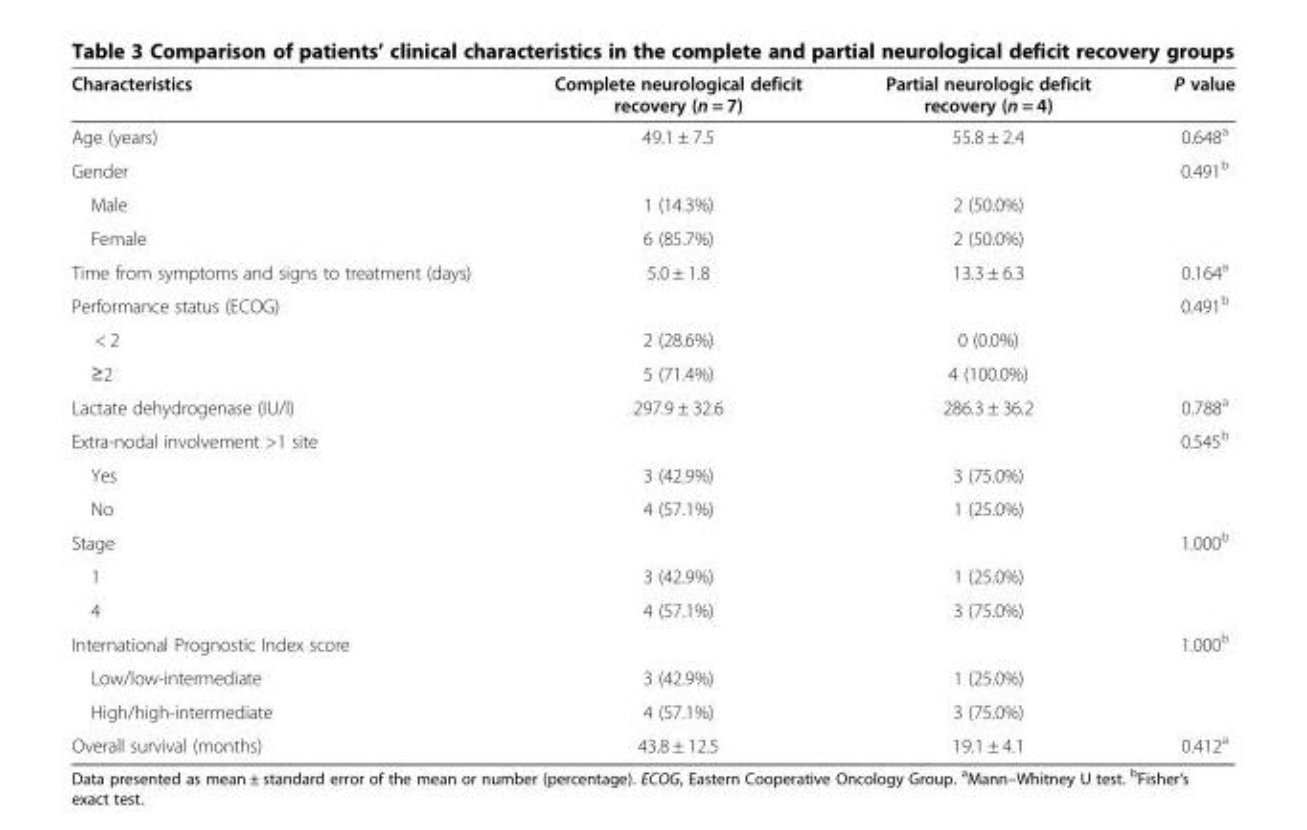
<table><thead><tr><td>Characteristics</td><td>Complete neurological deficit recovery (n = 7)</td><td>Partial neurologic deficit recovery (n = 4)</td><td>P value</td></tr></thead><tbody><tr><td>Age (years)</td><td>49.1 ± 7.5</td><td>55.8 ± 2.4</td><td>0.648<sup>a</sup></td></tr><tr><td>Gender</td><td></td><td></td><td>0.491<sup>b</sup></td></tr><tr><td>Male</td><td>1 (14.3%)</td><td>2 (50.0%)</td><td></td></tr><tr><td>Female</td><td>6 (85.7%)</td><td>2 (50.0%)</td><td></td></tr><tr><td>Time from symptoms and signs to treatment (days)</td><td>5.0 ± 1.8</td><td>13.3 ± 6.3</td><td>0.164<sup>a</sup></td></tr><tr><td>Performance status (ECOG)</td><td></td><td></td><td>0.491<sup>b</sup></td></tr><tr><td>&lt; 2</td><td>2 (28.6%)</td><td>0 (0.0%)</td><td></td></tr><tr><td>≥2</td><td>5 (71.4%)</td><td>4 (100.0%)</td><td></td></tr><tr><td>Lactate dehydrogenase (IU/l)</td><td>297.9 ± 32.6</td><td>286.3 ± 36.2</td><td>0.788<sup>a</sup></td></tr><tr><td>Extra-nodal involvement &gt;1 site</td><td></td><td></td><td>0.545<sup>b</sup></td></tr><tr><td>Yes</td><td>3 (42.9%)</td><td>3 (75.0%)</td><td></td></tr><tr><td>No</td><td>4 (57.1%)</td><td>1 (25.0%)</td><td></td></tr><tr><td>Stage</td><td></td><td></td><td>1.000<sup>b</sup></td></tr><tr><td>1</td><td>3 (42.9%)</td><td>1 (25.0%)</td><td></td></tr><tr><td>4</td><td>4 (57.1%)</td><td>3 (75.0%)</td><td></td></tr><tr><td>International Prognostic Index score</td><td></td><td></td><td>1.000<sup>b</sup></td></tr><tr><td>Low/low-intermediate</td><td>3 (42.9%)</td><td>1 (25.0%)</td><td></td></tr><tr><td>High/high-intermediate</td><td>4 (57.1%)</td><td>3 (75.0%)</td><td></td></tr><tr><td>Overall survival (months)</td><td>43.8 ± 12.5</td><td>19.1 ± 4.1</td><td>0.412<sup>a</sup></td></tr></tbody></table>